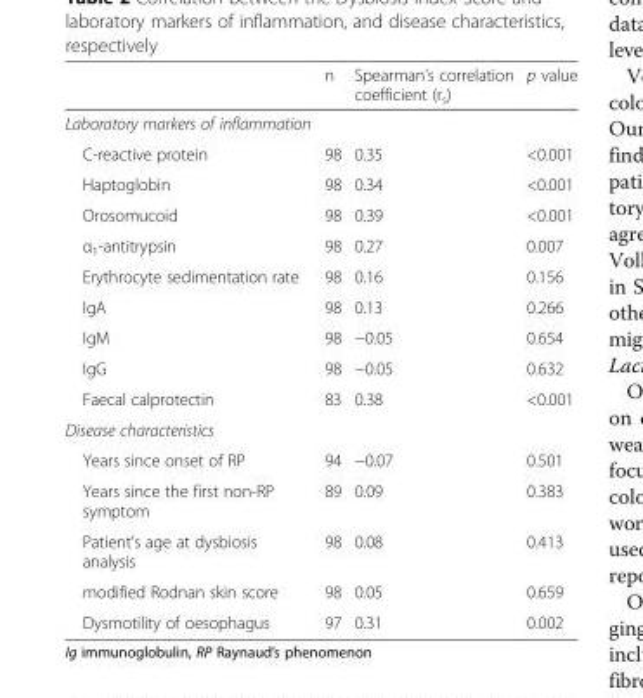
<table><thead><tr><td></td><td>n</td><td>Spearman’s correlation coefficient (r<sub>s</sub>)</td><td>p value</td></tr></thead><tbody><tr><td colspan="4">Laboratory markers of inflammation</td></tr><tr><td>C-reactive protein</td><td>98</td><td>0.35</td><td>&lt;0.001</td></tr><tr><td>Haptoglobin</td><td>98</td><td>0.34</td><td>&lt;0.001</td></tr><tr><td>Orosomucoid</td><td>98</td><td>0.39</td><td>&lt;0.001</td></tr><tr><td>α<sub>1</sub>-antitrypsin</td><td>98</td><td>0.27</td><td>0.007</td></tr><tr><td>Erythrocyte sedimentation rate</td><td>98</td><td>0.16</td><td>0.156</td></tr><tr><td>IgA</td><td>98</td><td>0.13</td><td>0.266</td></tr><tr><td>IgM</td><td>98</td><td>−0.05</td><td>0.654</td></tr><tr><td>IgG</td><td>98</td><td>−0.05</td><td>0.632</td></tr><tr><td>Faecal calprotectin</td><td>83</td><td>0.38</td><td>&lt;0.001</td></tr><tr><td colspan="4">Disease characteristics</td></tr><tr><td>Years since onset of RP</td><td>94</td><td>−0.07</td><td>0.501</td></tr><tr><td>Years since the first non-RP symptom</td><td>89</td><td>0.09</td><td>0.383</td></tr><tr><td>Patient’s age at dysbiosis analysis</td><td>98</td><td>0.08</td><td>0.413</td></tr><tr><td>modified Rodnan skin score</td><td>98</td><td>0.05</td><td>0.659</td></tr><tr><td>Dysmotility of oesophagus</td><td>97</td><td>0.31</td><td>0.002</td></tr></tbody></table>